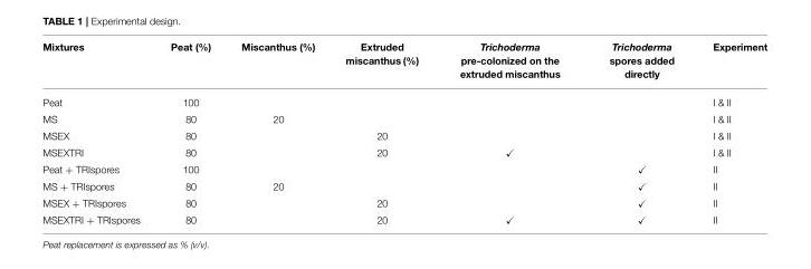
<table><thead><tr><td>Mixtures</td><td>Peat (%)</td><td>Miscanthus (%)</td><td>Extruded miscanthus (%)</td><td>Trichoderma pre-colonized on the extruded miscanthus</td><td>Trichoderma spores added directly</td><td>Experiment</td></tr></thead><tbody><tr><td>Peat</td><td>100</td><td></td><td></td><td></td><td></td><td>I &amp; II</td></tr><tr><td>MS</td><td>80</td><td>20</td><td></td><td></td><td></td><td>I &amp; II</td></tr><tr><td>MSEX</td><td>80</td><td></td><td>20</td><td></td><td></td><td>I &amp; II</td></tr><tr><td>MSEXTRI</td><td>80</td><td></td><td>20</td><td>✓</td><td></td><td>I &amp; II</td></tr><tr><td>Peat + TRIspores</td><td>100</td><td></td><td></td><td></td><td>✓</td><td>II</td></tr><tr><td>MS + TRIspores</td><td>80</td><td>20</td><td></td><td></td><td>✓</td><td>II</td></tr><tr><td>MSEX + TRIspores</td><td>80</td><td></td><td>20</td><td></td><td>✓</td><td>II</td></tr><tr><td>MSEXTRI + TRIspores</td><td>80</td><td></td><td>20</td><td>✓</td><td>✓</td><td>II</td></tr></tbody></table>